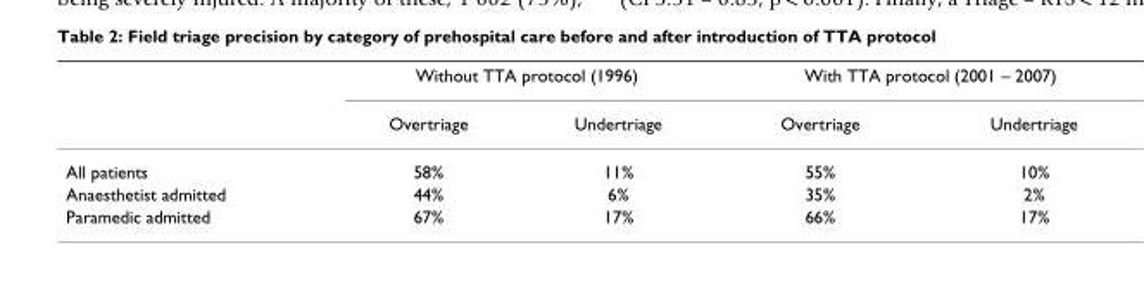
<table><thead><tr><td rowspan="2"></td><td colspan="2">Without TTA protocol (1996)</td><td colspan="2">With TTA protocol (2001 – 2007)</td></tr><tr><td>Overtriage</td><td>Undertriage</td><td>Overtriage</td><td>Undertriage</td></tr></thead><tbody><tr><td>All patients</td><td>58%</td><td>11%</td><td>55%</td><td>10%</td></tr><tr><td>Anaesthetist admitted</td><td>44%</td><td>6%</td><td>35%</td><td>2%</td></tr><tr><td>Paramedic admitted</td><td>67%</td><td>17%</td><td>66%</td><td>17%</td></tr></tbody></table>